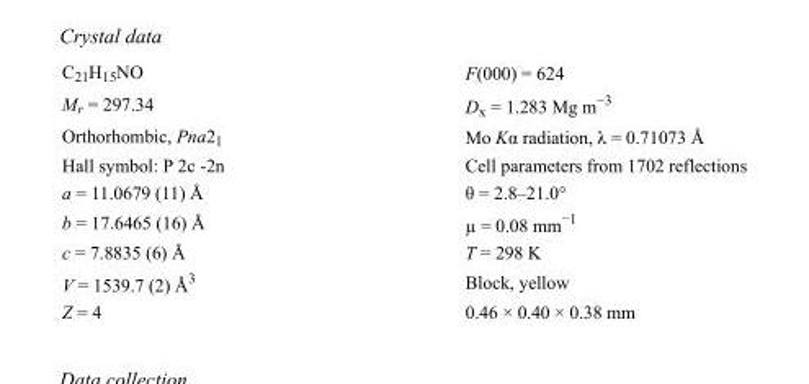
<table><tbody><tr><td>C<sub>21</sub>H<sub>15</sub>NO</td><td>F(000) = 624</td></tr><tr><td>M<sub>r</sub> = 297.34</td><td>D<sub>x</sub> = 1.283 Mg m<sup>−3</sup></td></tr><tr><td>Orthorhombic, Pna2<sub>1</sub></td><td>Mo Kα radiation, λ = 0.71073 Å</td></tr><tr><td>Hall symbol: P 2c -2n</td><td>Cell parameters from 1702 reflections</td></tr><tr><td>a = 11.0679 (11) Å</td><td>θ = 2.8–21.0°</td></tr><tr><td>b = 17.6465 (16) Å</td><td>µ = 0.08 mm<sup>−1</sup></td></tr><tr><td>c = 7.8835 (6) Å</td><td>T = 298 K</td></tr><tr><td>V = 1539.7 (2) Å<sup>3</sup></td><td>Block, yellow</td></tr><tr><td>Z = 4</td><td>0.46 × 0.40 × 0.38 mm</td></tr></tbody></table>